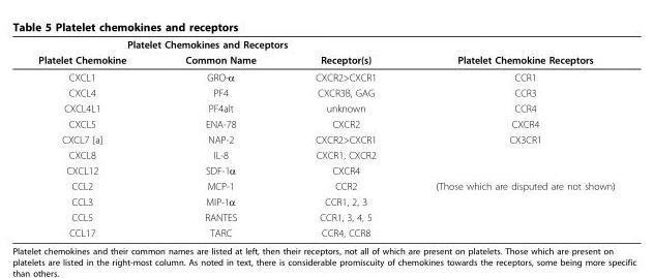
<table><thead><tr><td colspan="3">Platelet Chemokines and Receptors</td><td rowspan="2">Platelet Chemokine Receptors</td></tr><tr><td>Platelet Chemokine</td><td>Common Name</td><td>Receptor(s)</td></tr></thead><tbody><tr><td>CXCL1</td><td>GRO-α</td><td>CXCR2&gt;CXCR1</td><td>CCR1</td></tr><tr><td>CXCL4</td><td>PF4</td><td>CXCR3B, GAG</td><td>CCR3</td></tr><tr><td>CXCL4L1</td><td>PF4alt</td><td>unknown</td><td>CCR4</td></tr><tr><td>CXCL5</td><td>ENA-78</td><td>CXCR2</td><td>CXCR4</td></tr><tr><td>CXCL7 [a]</td><td>NAP-2</td><td>CXCR2&gt;CXCR1</td><td>CX3CR1</td></tr><tr><td>CXCL8</td><td>IL-8</td><td>CXCR1, CXCR2</td><td></td></tr><tr><td>CXCL12</td><td>SDF-1α</td><td>CXCR4</td><td></td></tr><tr><td>CCL2</td><td>MCP-1</td><td>CCR2</td><td>(Those which are disputed are not shown)</td></tr><tr><td>CCL3</td><td>MIP-1α</td><td>CCR1, 2, 3</td><td></td></tr><tr><td>CCL5</td><td>RANTES</td><td>CCR1, 3, 4, 5</td><td></td></tr><tr><td>CCL17</td><td>TARC</td><td>CCR4, CCR8</td><td></td></tr></tbody></table>